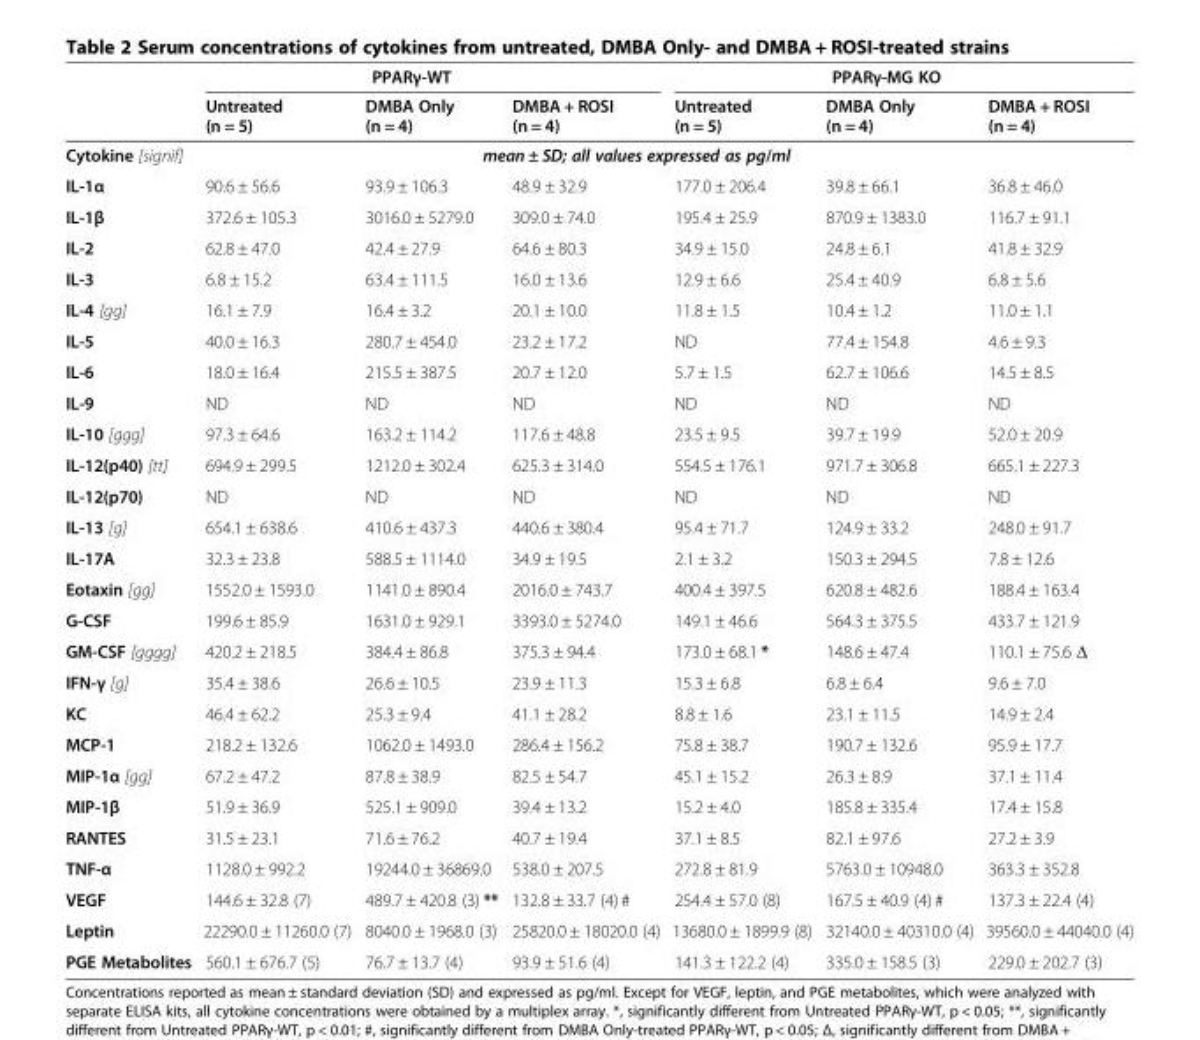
<table><thead><tr><td rowspan="2"></td><td colspan="3">PPARγ-WT</td><td colspan="3">PPARγ-MG KO</td></tr><tr><td>Untreated (n = 5)</td><td>DMBA Only (n = 4)</td><td>DMBA + ROSI (n = 4)</td><td>Untreated (n = 5)</td><td>DMBA Only (n = 4)</td><td>DMBA + ROSI (n = 4)</td></tr></thead><tbody><tr><td>Cytokine [signif]</td><td colspan="6">mean ± SD; all values expressed as pg/ml</td></tr><tr><td>IL-1α</td><td>90.6 ± 56.6</td><td>93.9 ± 106.3</td><td>48.9 ± 32.9</td><td>177.0 ± 206.4</td><td>39.8 ± 66.1</td><td>36.8 ± 46.0</td></tr><tr><td>IL-1β</td><td>372.6 ± 105.3</td><td>3016.0 ± 5279.0</td><td>309.0 ± 74.0</td><td>195.4 ± 25.9</td><td>870.9 ± 1383.0</td><td>116.7 ± 91.1</td></tr><tr><td>IL-2</td><td>62.8 ± 47.0</td><td>42.4 ± 27.9</td><td>64.6 ± 80.3</td><td>34.9 ± 15.0</td><td>24.8 ± 6.1</td><td>41.8 ± 32.9</td></tr><tr><td>IL-3</td><td>6.8 ± 15.2</td><td>63.4 ± 111.5</td><td>16.0 ± 13.6</td><td>12.9 ± 6.6</td><td>25.4 ± 40.9</td><td>6.8 ± 5.6</td></tr><tr><td>IL-4 [gg]</td><td>16.1 ± 7.9</td><td>16.4 ± 3.2</td><td>20.1 ± 10.0</td><td>11.8 ± 1.5</td><td>10.4 ± 1.2</td><td>11.0 ± 1.1</td></tr><tr><td>IL-5</td><td>40.0 ± 16.3</td><td>280.7 ± 454.0</td><td>23.2 ± 17.2</td><td>ND</td><td>77.4 ± 154.8</td><td>4.6 ± 9.3</td></tr><tr><td>IL-6</td><td>18.0 ± 16.4</td><td>215.5 ± 387.5</td><td>20.7 ± 12.0</td><td>5.7 ± 1.5</td><td>62.7 ± 106.6</td><td>14.5 ± 8.5</td></tr><tr><td>IL-9</td><td>ND</td><td>ND</td><td>ND</td><td>ND</td><td>ND</td><td>ND</td></tr><tr><td>IL-10 [ggg]</td><td>97.3 ± 64.6</td><td>163.2 ± 114.2</td><td>117.6 ± 48.8</td><td>23.5 ± 9.5</td><td>39.7 ± 19.9</td><td>52.0 ± 20.9</td></tr><tr><td>IL-12(p40) [tt]</td><td>694.9 ± 299.5</td><td>1212.0 ± 302.4</td><td>625.3 ± 314.0</td><td>554.5 ± 176.1</td><td>971.7 ± 306.8</td><td>665.1 ± 227.3</td></tr><tr><td>IL-12(p70)</td><td>ND</td><td>ND</td><td>ND</td><td>ND</td><td>ND</td><td>ND</td></tr><tr><td>IL-13 [g]</td><td>654.1 ± 638.6</td><td>410.6 ± 437.3</td><td>440.6 ± 380.4</td><td>95.4 ± 71.7</td><td>124.9 ± 33.2</td><td>248.0 ± 91.7</td></tr><tr><td>IL-17A</td><td>32.3 ± 23.8</td><td>588.5 ± 1114.0</td><td>34.9 ± 19.5</td><td>2.1 ± 3.2</td><td>150.3 ± 294.5</td><td>7.8 ± 12.6</td></tr><tr><td>Eotaxin [gg]</td><td>1552.0 ± 1593.0</td><td>1141.0 ± 890.4</td><td>2016.0 ± 743.7</td><td>400.4 ± 397.5</td><td>620.8 ± 482.6</td><td>188.4 ± 163.4</td></tr><tr><td>G-CSF</td><td>199.6 ± 85.9</td><td>1631.0 ± 929.1</td><td>3393.0 ± 5274.0</td><td>149.1 ± 46.6</td><td>564.3 ± 375.5</td><td>433.7 ± 121.9</td></tr><tr><td>GM-CSF [gggg]</td><td>420.2 ± 218.5</td><td>384.4 ± 86.8</td><td>375.3 ± 94.4</td><td>173.0 ± 68.1 *</td><td>148.6 ± 47.4</td><td>110.1 ± 75.6 Δ</td></tr><tr><td>IFN-γ [g]</td><td>35.4 ± 38.6</td><td>26.6 ± 10.5</td><td>23.9 ± 11.3</td><td>15.3 ± 6.8</td><td>6.8 ± 6.4</td><td>9.6 ± 7.0</td></tr><tr><td>KC</td><td>46.4 ± 62.2</td><td>25.3 ± 9.4</td><td>41.1 ± 28.2</td><td>8.8 ± 1.6</td><td>23.1 ± 11.5</td><td>14.9 ± 2.4</td></tr><tr><td>MCP-1</td><td>218.2 ± 132.6</td><td>1062.0 ± 1493.0</td><td>286.4 ± 156.2</td><td>75.8 ± 38.7</td><td>190.7 ± 132.6</td><td>95.9 ± 17.7</td></tr><tr><td>MIP-1α [gg]</td><td>67.2 ± 47.2</td><td>87.8 ± 38.9</td><td>82.5 ± 54.7</td><td>45.1 ± 15.2</td><td>26.3 ± 8.9</td><td>37.1 ± 11.4</td></tr><tr><td>MIP-1β</td><td>51.9 ± 36.9</td><td>525.1 ± 909.0</td><td>39.4 ± 13.2</td><td>15.2 ± 4.0</td><td>185.8 ± 335.4</td><td>17.4 ± 15.8</td></tr><tr><td>RANTES</td><td>31.5 ± 23.1</td><td>71.6 ± 76.2</td><td>40.7 ± 19.4</td><td>37.1 ± 8.5</td><td>82.1 ± 97.6</td><td>27.2 ± 3.9</td></tr><tr><td>TNF-α</td><td>1128.0 ± 992.2</td><td>19244.0 ± 36869.0</td><td>538.0 ± 207.5</td><td>272.8 ± 81.9</td><td>5763.0 ± 10948.0</td><td>363.3 ± 352.8</td></tr><tr><td>VEGF</td><td>144.6 ± 32.8 (7)</td><td>489.7 ± 420.8 (3) **</td><td>132.8 ± 33.7 (4) #</td><td>254.4 ± 57.0 (8)</td><td>167.5 ± 40.9 (4) #</td><td>137.3 ± 22.4 (4)</td></tr><tr><td>Leptin</td><td>22290.0 ± 11260.0 (7)</td><td>8040.0 ± 1968.0 (3)</td><td>25820.0 ± 18020.0 (4)</td><td>13680.0 ± 1899.9 (8)</td><td>32140.0 ± 40310.0 (4)</td><td>39560.0 ± 44040.0 (4)</td></tr><tr><td>PGE Metabolites</td><td>560.1 ± 676.7 (5)</td><td>76.7 ± 13.7 (4)</td><td>93.9 ± 51.6 (4)</td><td>141.3 ± 122.2 (4)</td><td>335.0 ± 158.5 (3)</td><td>229.0 ± 202.7 (3)</td></tr></tbody></table>